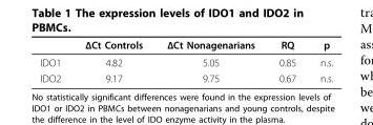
<table><thead><tr><td></td><td>ΔCt Controls</td><td>ΔCt Nonagenarians</td><td>RQ</td><td>p</td></tr></thead><tbody><tr><td>IDO1</td><td>4.82</td><td>5.05</td><td>0.85</td><td>n.s.</td></tr><tr><td>IDO2</td><td>9.17</td><td>9.75</td><td>0.67</td><td>n.s.</td></tr></tbody></table>